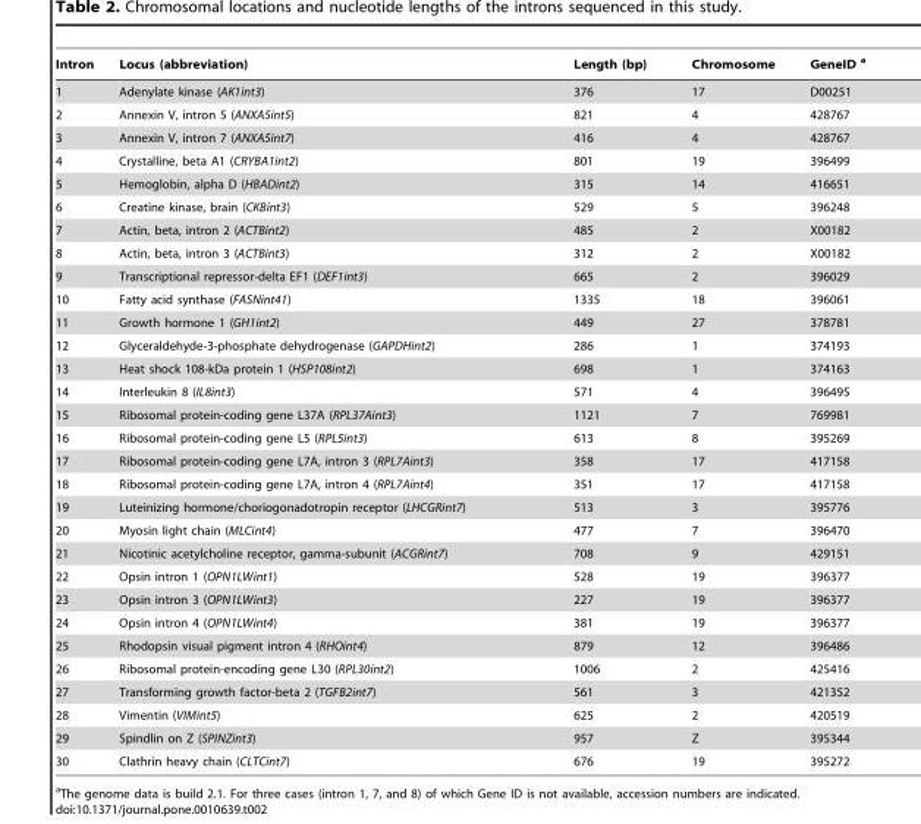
<table><thead><tr><td>Intron</td><td>Locus (abbreviation)</td><td>Length (bp)</td><td>Chromosome</td><td>GeneID a</td></tr></thead><tbody><tr><td>1</td><td>Adenylate kinase (AK1int3)</td><td>376</td><td>17</td><td>D00251</td></tr><tr><td>2</td><td>Annexin V, intron 5 (ANXA5int5)</td><td>821</td><td>4</td><td>428767</td></tr><tr><td>3</td><td>Annexin V, intron 7 (ANXA5int7)</td><td>416</td><td>4</td><td>428767</td></tr><tr><td>4</td><td>Crystalline, beta A1 (CRYBA1int2)</td><td>801</td><td>19</td><td>396499</td></tr><tr><td>5</td><td>Hemoglobin, alpha D (HBADint2)</td><td>315</td><td>14</td><td>416651</td></tr><tr><td>6</td><td>Creatine kinase, brain (CKBint3)</td><td>529</td><td>5</td><td>396248</td></tr><tr><td>7</td><td>Actin, beta, intron 2 (ACTBint2)</td><td>485</td><td>2</td><td>X00182</td></tr><tr><td>8</td><td>Actin, beta, intron 3 (ACTBint3)</td><td>312</td><td>2</td><td>X00182</td></tr><tr><td>9</td><td>Transcriptional repressor-delta EF1 (DEF1int3)</td><td>665</td><td>2</td><td>396029</td></tr><tr><td>10</td><td>Fatty acid synthase (FASNint41)</td><td>1335</td><td>18</td><td>396061</td></tr><tr><td>11</td><td>Growth hormone 1 (GH1int2)</td><td>449</td><td>27</td><td>378781</td></tr><tr><td>12</td><td>Glyceraldehyde-3-phosphate dehydrogenase (GAPDHint2)</td><td>286</td><td>1</td><td>374193</td></tr><tr><td>13</td><td>Heat shock 108-kDa protein 1 (HSP108int2)</td><td>698</td><td>1</td><td>374163</td></tr><tr><td>14</td><td>Interleukin 8 (IL8int3)</td><td>571</td><td>4</td><td>396495</td></tr><tr><td>15</td><td>Ribosomal protein-coding gene L37A (RPL37Aint3)</td><td>1121</td><td>7</td><td>769981</td></tr><tr><td>16</td><td>Ribosomal protein-coding gene L5 (RPL5int3)</td><td>613</td><td>8</td><td>395269</td></tr><tr><td>17</td><td>Ribosomal protein-coding gene L7A, intron 3 (RPL7Aint3)</td><td>358</td><td>17</td><td>417158</td></tr><tr><td>18</td><td>Ribosomal protein-coding gene L7A, intron 4 (RPL7Aint4)</td><td>351</td><td>17</td><td>417158</td></tr><tr><td>19</td><td>Luteinizing hormone/choriogonadotropin receptor (LHCGRint7)</td><td>513</td><td>3</td><td>395776</td></tr><tr><td>20</td><td>Myosin light chain (MLCint4)</td><td>477</td><td>7</td><td>396470</td></tr><tr><td>21</td><td>Nicotinic acetylcholine receptor, gamma-subunit (ACGRint7)</td><td>708</td><td>9</td><td>429151</td></tr><tr><td>22</td><td>Opsin intron 1 (OPN1LWint1)</td><td>528</td><td>19</td><td>396377</td></tr><tr><td>23</td><td>Opsin intron 3 (OPN1LWint3)</td><td>227</td><td>19</td><td>396377</td></tr><tr><td>24</td><td>Opsin intron 4 (OPN1LWint4)</td><td>381</td><td>19</td><td>396377</td></tr><tr><td>25</td><td>Rhodopsin visual pigment intron 4 (RHOint4)</td><td>879</td><td>12</td><td>396486</td></tr><tr><td>26</td><td>Ribosomal protein-encoding gene L30 (RPL30int2)</td><td>1006</td><td>2</td><td>425416</td></tr><tr><td>27</td><td>Transforming growth factor-beta 2 (TGFB2int7)</td><td>561</td><td>3</td><td>421352</td></tr><tr><td>28</td><td>Vimentin (VIMint5)</td><td>625</td><td>2</td><td>420519</td></tr><tr><td>29</td><td>Spindlin on Z (SPINZint3)</td><td>957</td><td>Z</td><td>395344</td></tr><tr><td>30</td><td>Clathrin heavy chain (CLTCint7)</td><td>676</td><td>19</td><td>395272</td></tr></tbody></table>